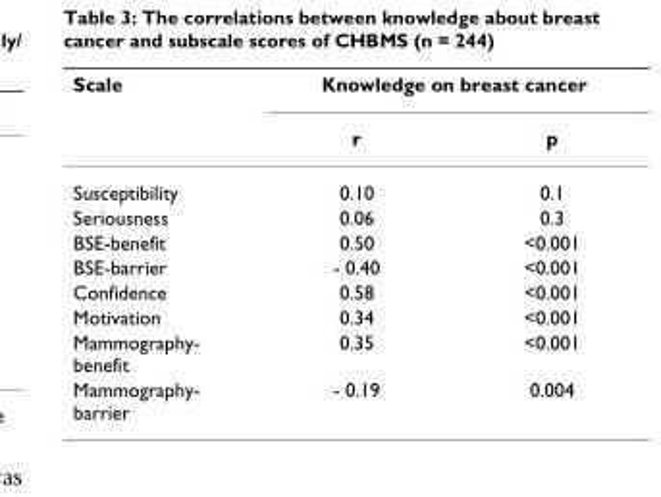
<table><thead><tr><td rowspan="2">Scale</td><td colspan="2">Knowledge on breast cancer</td></tr><tr><td>r</td><td>p</td></tr></thead><tbody><tr><td>Susceptibility</td><td>0.10</td><td>0.1</td></tr><tr><td>Seriousness</td><td>0.06</td><td>0.3</td></tr><tr><td>BSE-benefit</td><td>0.50</td><td>&lt;0.001</td></tr><tr><td>BSE-barrier</td><td>- 0.40</td><td>&lt;0.001</td></tr><tr><td>Confidence</td><td>0.58</td><td>&lt;0.001</td></tr><tr><td>Motivation</td><td>0.34</td><td>&lt;0.001</td></tr><tr><td>Mammography- benefit</td><td>0.35</td><td>&lt;0.001</td></tr><tr><td>Mammography- barrier</td><td>- 0.19</td><td>0.004</td></tr></tbody></table>